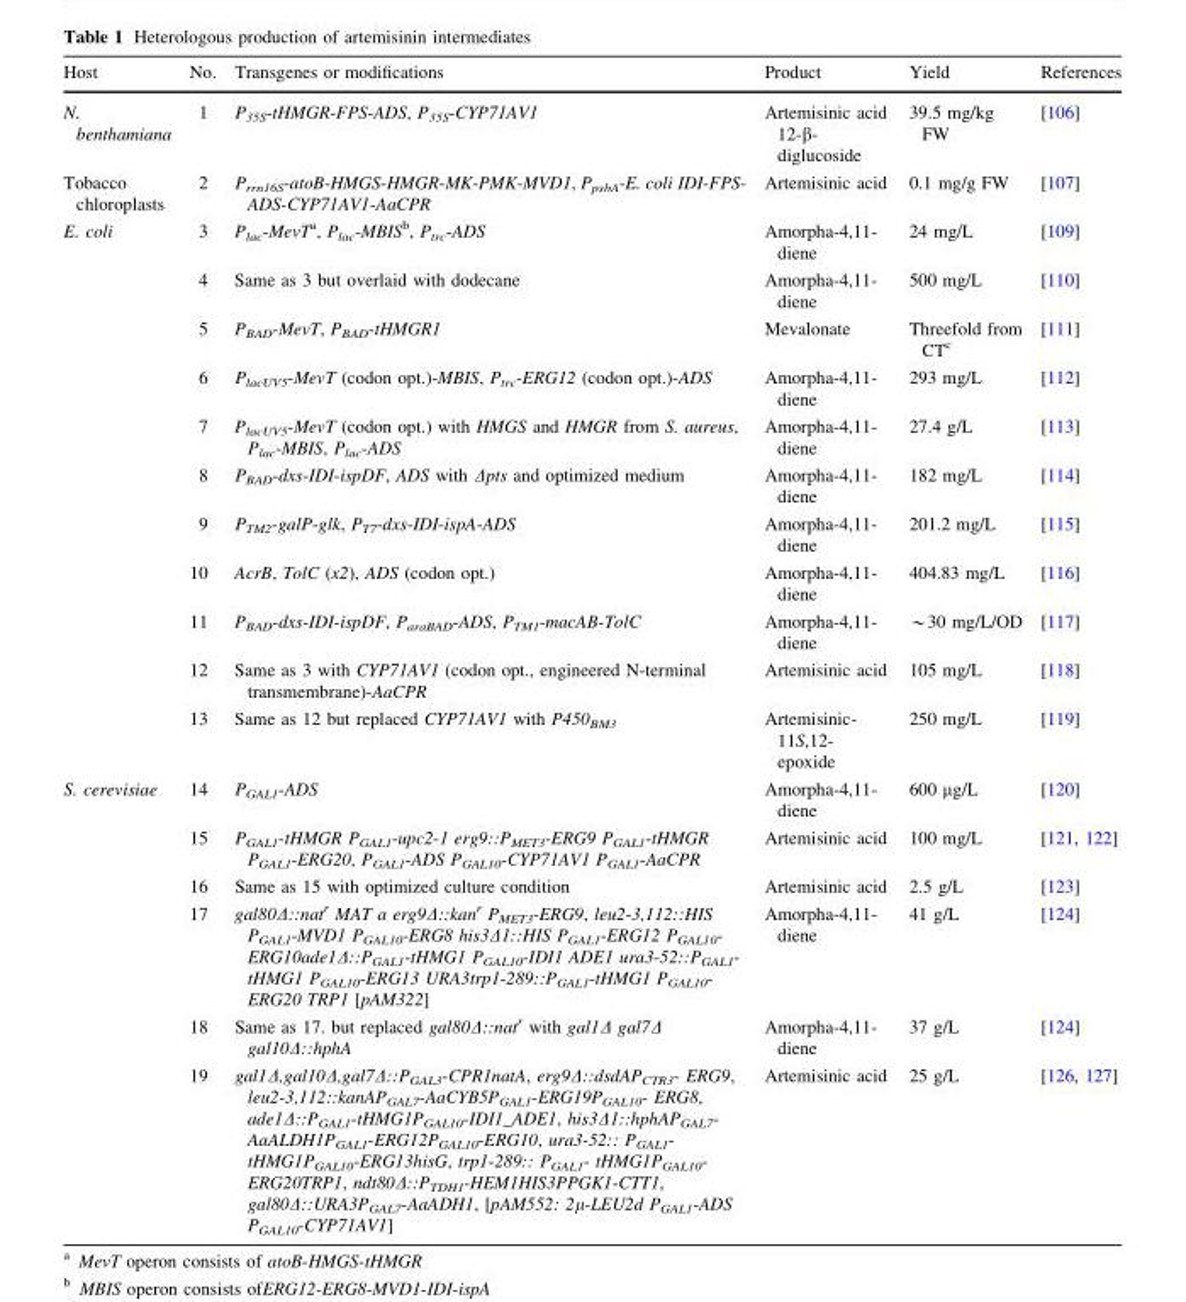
<table><thead><tr><td>Host</td><td>No.</td><td>Transgenes or modifications</td><td>Product</td><td>Yield</td><td>References</td></tr></thead><tbody><tr><td>N. benthamiana</td><td>1</td><td>P<sub>35S</sub>-tHMGR-FPS-ADS, P<sub>35S</sub>-CYP71AV1</td><td>Artemisinic acid 12-β- diglucoside</td><td>39.5 mg/kg FW</td><td>[106]</td></tr><tr><td>Tobacco chloroplasts</td><td>2</td><td>P<sub>rrn16S</sub>-atoB-HMGS-HMGR-MK-PMK-MVD1, P<sub>psbA</sub>-E. coli IDI-FPS- ADS-CYP71AV1-AaCPR</td><td>Artemisinic acid</td><td>0.1 mg/g FW</td><td>[107]</td></tr><tr><td rowspan="11">E. coli</td><td>3</td><td>P<sub>lac</sub>-MevT<sup>a</sup>, P<sub>lac</sub>-MBIS<sup>b</sup>, P<sub>trc</sub>-ADS</td><td>Amorpha-4,11- diene</td><td>24 mg/L</td><td>[109]</td></tr><tr><td>4</td><td>Same as 3 but overlaid with dodecane</td><td>Amorpha-4,11- diene</td><td>500 mg/L</td><td>[110]</td></tr><tr><td>5</td><td>P<sub>BAD</sub>-MevT, P<sub>BAD</sub>-tHMGR1</td><td>Mevalonate</td><td>Threefold from CT<sup>c</sup></td><td>[111]</td></tr><tr><td>6</td><td>P<sub>lacUV5</sub>-MevT (codon opt.)-MBIS, P<sub>trc</sub>-ERG12 (codon opt.)-ADS</td><td>Amorpha-4,11- diene</td><td>293 mg/L</td><td>[112]</td></tr><tr><td>7</td><td>P<sub>lacUV5</sub>-MevT (codon opt.) with HMGS and HMGR from S. aureus, P<sub>lac</sub>-MBIS, P<sub>lac</sub>-ADS</td><td>Amorpha-4,11- diene</td><td>27.4 g/L</td><td>[113]</td></tr><tr><td>8</td><td>P<sub>BAD</sub>-dxs-IDI-ispDF, ADS with Δpts and optimized medium</td><td>Amorpha-4,11- diene</td><td>182 mg/L</td><td>[114]</td></tr><tr><td>9</td><td>P<sub>TM2</sub>-galP-glk, P<sub>T7</sub>-dxs-IDI-ispA-ADS</td><td>Amorpha-4,11- diene</td><td>201.2 mg/L</td><td>[115]</td></tr><tr><td>10</td><td>AcrB, TolC (x2), ADS (codon opt.)</td><td>Amorpha-4,11- diene</td><td>404.83 mg/L</td><td>[116]</td></tr><tr><td>11</td><td>P<sub>BAD</sub>-dxs-IDI-ispDF, P<sub>araBAD</sub>-ADS, P<sub>TM1</sub>-macAB-TolC</td><td>Amorpha-4,11- diene</td><td>*30 mg/L/OD</td><td>[117]</td></tr><tr><td>12</td><td>Same as 3 with CYP71AV1 (codon opt., engineered N-terminal transmembrane)-AaCPR</td><td>Artemisinic acid</td><td>105 mg/L</td><td>[118]</td></tr><tr><td>13</td><td>Same as 12 but replaced CYP71AV1 with P450<sub>BM3</sub></td><td>Artemisinic- 11S,12- epoxide</td><td>250 mg/L</td><td>[119]</td></tr><tr><td rowspan="6">S. cerevisiae</td><td>14</td><td>P<sub>GAL1</sub>-ADS</td><td>Amorpha-4,11- diene</td><td>600 μg/L</td><td>[120]</td></tr><tr><td>15</td><td>P<sub>GAL1</sub>-tHMGR P<sub>GAL1</sub>-upc2-1 erg9::P<sub>MET3</sub>-ERG9 P<sub>GAL1</sub>-tHMGR P<sub>GAL1</sub>-ERG20, P<sub>GAL1</sub>-ADS P<sub>GAL10</sub>-CYP71AV1 P<sub>GAL1</sub>-AaCPR</td><td>Artemisinic acid</td><td>100 mg/L</td><td>[121, 122]</td></tr><tr><td>16</td><td>Same as 15 with optimized culture condition</td><td>Artemisinic acid</td><td>2.5 g/L</td><td>[123]</td></tr><tr><td>17</td><td>gal80D::natr MAT a erg9D::kanr PMET3-ERG9, leu2-3,112::HIS PGAL1-MVD1 PGAL10-ERG8 his3D1::HIS PGAL1-ERG12 PGAL10- ERG10ade1D::PGAL1-tHMG1 PGAL10-IDI1 ADE1 ura3-52::PGAL1- tHMG1 PGAL10-ERG13 URA3trp1-289::PGAL1-tHMG1 PGAL10- ERG20 TRP1 [pAM322]</td><td>Amorpha-4,11- diene</td><td>41 g/L</td><td>[124]</td></tr><tr><td>18</td><td>Same as 17. but replaced gal80Δ::nat<sup>r</sup> with gal1Δ gal7Δ gal10Δ::hphA</td><td>Amorpha-4,11- diene</td><td>37 g/L</td><td>[124]</td></tr><tr><td>19</td><td>gal1Δ,gal10Δ,gal7Δ::PGAL3-CPR1natA, erg9Δ::dsdAPCTR3- ERG9, leu2-3,112::kanAPGAL7-AaCYB5PGAL1-ERG19PGAL10- ERG8, ade1Δ::PGAL1-tHMG1PGAL10-IDI1_ADE1, his3Δ1::hphAPGAL7- AaALDH1PGAL1-ERG12PGAL10-ERG10, ura3-52:: PGAL1- tHMG1PGAL10-ERG13hisG, trp1-289:: PGAL1- tHMG1PGAL10- ERG20TRP1, ndt80Δ::PTDH1-HEM1HIS3PPGK1-CTT1, gal80Δ::URA3PGAL7-AaADH1, [pAM552: 2μ-LEU2d PGAL1-ADS PGAL10-CYP71AV1]</td><td>Artemisinic acid</td><td>25 g/L</td><td>[126, 127]</td></tr></tbody></table>